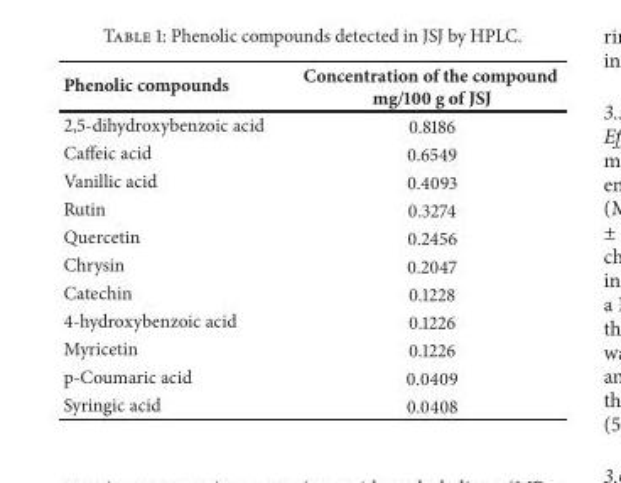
<table><thead><tr><td>Phenolic compounds</td><td>Concentration of the compound mg/100 g of JSJ</td></tr></thead><tbody><tr><td>2,5-dihydroxybenzoic acid</td><td>0.8186</td></tr><tr><td>Caffeic acid</td><td>0.6549</td></tr><tr><td>Vanillic acid</td><td>0.4093</td></tr><tr><td>Rutin</td><td>0.3274</td></tr><tr><td>Quercetin</td><td>0.2456</td></tr><tr><td>Chrysin</td><td>0.2047</td></tr><tr><td>Catechin</td><td>0.1228</td></tr><tr><td>4-hydroxybenzoic acid</td><td>0.1226</td></tr><tr><td>Myricetin</td><td>0.1226</td></tr><tr><td>p-Coumaric acid</td><td>0.0409</td></tr><tr><td>Syringic acid</td><td>0.0408</td></tr></tbody></table>